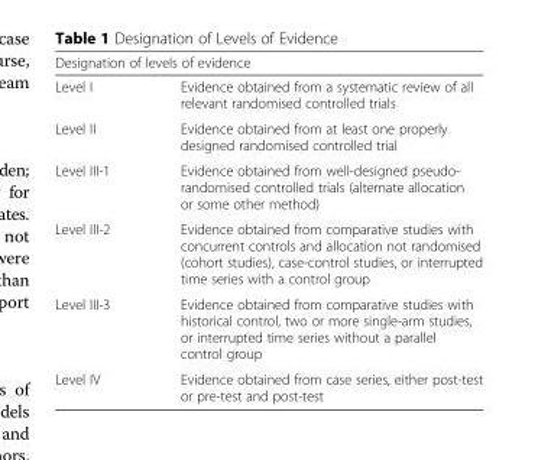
<table><thead><tr><td colspan="2">Designation of levels of evidence</td></tr><tr><td>Level I</td><td>Evidence obtained from a systematic review of all relevant randomised controlled trials</td></tr></thead><tbody><tr><td>Level II</td><td>Evidence obtained from at least one properly designed randomised controlled trial</td></tr><tr><td>Level III-1</td><td>Evidence obtained from well-designed pseudo- randomised controlled trials (alternate allocation or some other method)</td></tr><tr><td>Level III-2</td><td>Evidence obtained from comparative studies with concurrent controls and allocation not randomised (cohort studies), case-control studies, or interrupted time series with a control group</td></tr><tr><td>Level III-3</td><td>Evidence obtained from comparative studies with historical control, two or more single-arm studies, or interrupted time series without a parallel control group</td></tr><tr><td>Level IV</td><td>Evidence obtained from case series, either post-test or pre-test and post-test</td></tr></tbody></table>